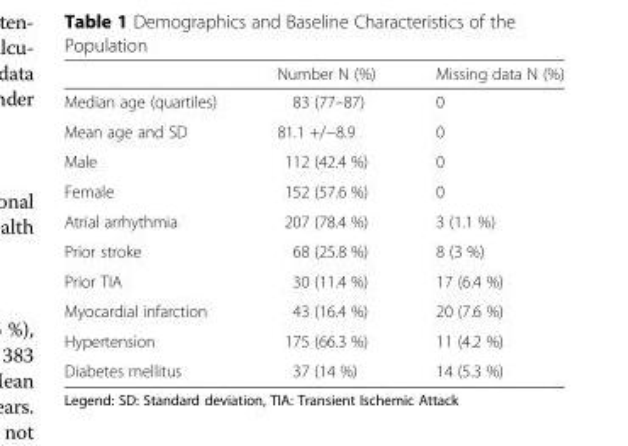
<table><thead><tr><td></td><td>Number N (%)</td><td>Missing data N (%)</td></tr></thead><tbody><tr><td>Median age (quartiles)</td><td>83 (77–87)</td><td>0</td></tr><tr><td>Mean age and SD</td><td>81.1 +/−8.9</td><td>0</td></tr><tr><td>Male</td><td>112 (42.4 %)</td><td>0</td></tr><tr><td>Female</td><td>152 (57.6 %)</td><td>0</td></tr><tr><td>Atrial arrhythmia</td><td>207 (78.4 %)</td><td>3 (1.1 %)</td></tr><tr><td>Prior stroke</td><td>68 (25.8 %)</td><td>8 (3 %)</td></tr><tr><td>Prior TIA</td><td>30 (11.4 %)</td><td>17 (6.4 %)</td></tr><tr><td>Myocardial infarction</td><td>43 (16.4 %)</td><td>20 (7.6 %)</td></tr><tr><td>Hypertension</td><td>175 (66.3 %)</td><td>11 (4.2 %)</td></tr><tr><td>Diabetes mellitus</td><td>37 (14 %)</td><td>14 (5.3 %)</td></tr></tbody></table>